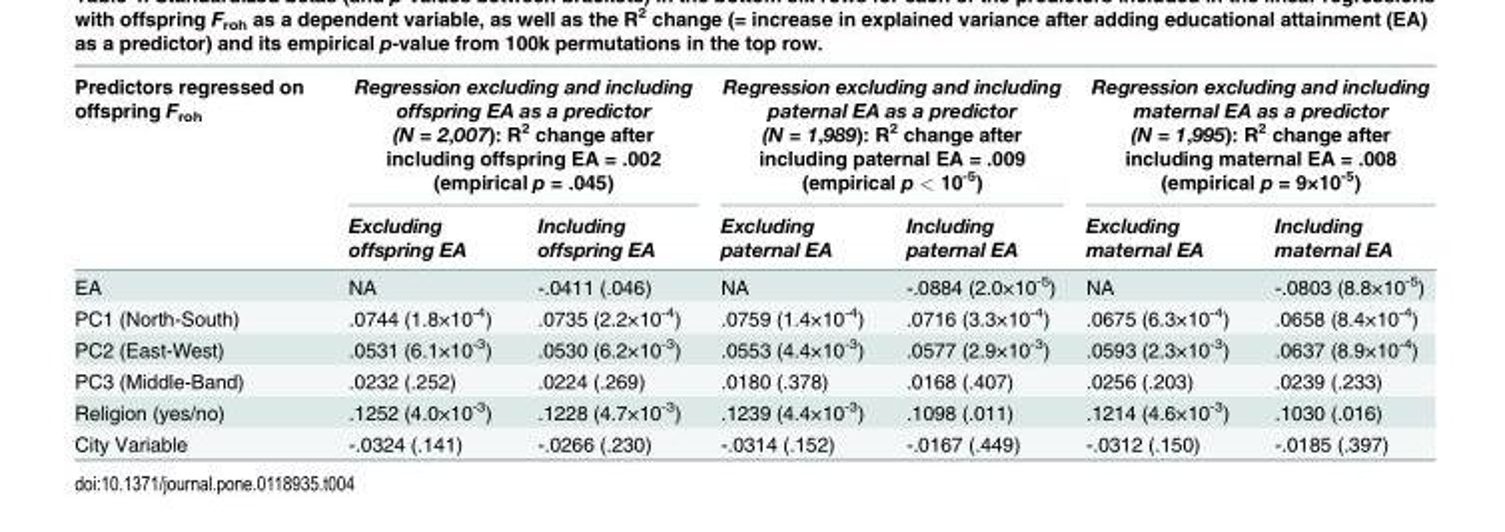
<table><thead><tr><td rowspan="2">Predictors regressed on offspring F<sub>roh</sub></td><td colspan="2">Regression excluding and including offspring EA as a predictor (N = 2,007): R<sup>2</sup> change after including offspring EA = .002 (empirical p = .045)</td><td colspan="2">Regression excluding and including paternal EA as a predictor (N = 1,989): R<sup>2</sup> change after including paternal EA = .009 (empirical p &lt; 10<sup>-5</sup>)</td><td colspan="2">Regression excluding and including maternal EA as a predictor (N = 1,995): R<sup>2</sup> change after including maternal EA = .008 (empirical p = 9×10<sup>-5</sup>)</td></tr><tr><td>Excluding offspring EA</td><td>Including offspring EA</td><td>Excluding paternal EA</td><td>Including paternal EA</td><td>Excluding maternal EA</td><td>Including maternal EA</td></tr></thead><tbody><tr><td>EA</td><td>NA</td><td>-.0411 (.046)</td><td>NA</td><td>-.0884 (2.0×10<sup>-5</sup>)</td><td>NA</td><td>-.0803 (8.8×10<sup>-5</sup>)</td></tr><tr><td>PC1 (North-South)</td><td>.0744 (1.8×10<sup>-4</sup>)</td><td>.0735 (2.2×10<sup>-4</sup>)</td><td>.0759 (1.4×10<sup>-4</sup>)</td><td>.0716 (3.3×10<sup>-4</sup>)</td><td>.0675 (6.3×10<sup>-4</sup>)</td><td>.0658 (8.4×10<sup>-4</sup>)</td></tr><tr><td>PC2 (East-West)</td><td>.0531 (6.1×10<sup>-3</sup>)</td><td>.0530 (6.2×10<sup>-3</sup>)</td><td>.0553 (4.4×10<sup>-3</sup>)</td><td>.0577 (2.9×10<sup>-3</sup>)</td><td>.0593 (2.3×10<sup>-3</sup>)</td><td>.0637 (8.9×10<sup>-4</sup>)</td></tr><tr><td>PC3 (Middle-Band)</td><td>.0232 (.252)</td><td>.0224 (.269)</td><td>.0180 (.378)</td><td>.0168 (.407)</td><td>.0256 (.203)</td><td>.0239 (.233)</td></tr><tr><td>Religion (yes/no)</td><td>.1252 (4.0×10<sup>-3</sup>)</td><td>.1228 (4.7×10<sup>-3</sup>)</td><td>.1239 (4.4×10<sup>-3</sup>)</td><td>.1098 (.011)</td><td>.1214 (4.6×10<sup>-3</sup>)</td><td>.1030 (.016)</td></tr><tr><td>City Variable</td><td>-.0324 (.141)</td><td>-.0266 (.230)</td><td>-.0314 (.152)</td><td>-.0167 (.449)</td><td>-.0312 (.150)</td><td>-.0185 (.397)</td></tr></tbody></table>